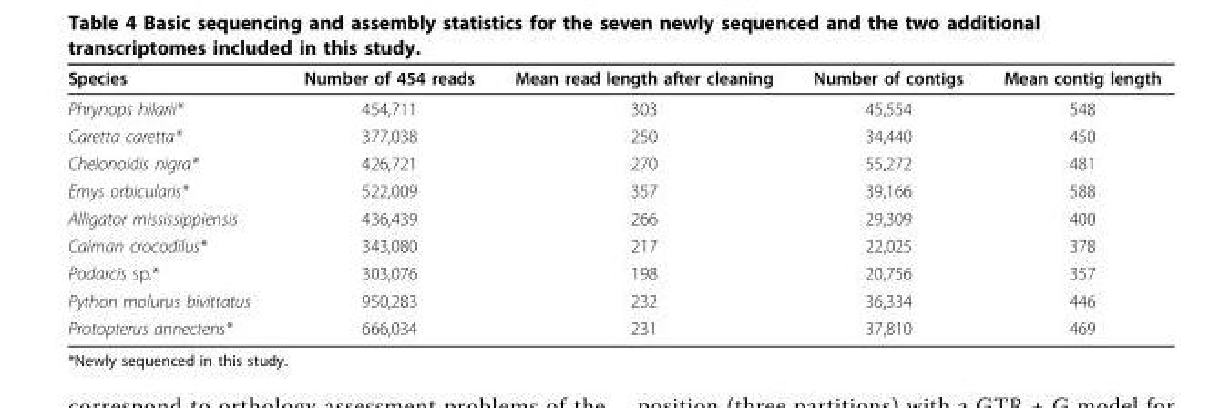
<table><thead><tr><td>Species</td><td>Number of 454 reads</td><td>Mean read length after cleaning</td><td>Number of contigs</td><td>Mean contig length</td></tr></thead><tbody><tr><td>Phrynops hilarii*</td><td>454,711</td><td>303</td><td>45,554</td><td>548</td></tr><tr><td>Caretta caretta*</td><td>377,038</td><td>250</td><td>34,440</td><td>450</td></tr><tr><td>Chelonoidis nigra*</td><td>426,721</td><td>270</td><td>55,272</td><td>481</td></tr><tr><td>Emys orbicularis*</td><td>522,009</td><td>357</td><td>39,166</td><td>588</td></tr><tr><td>Alligator mississippiensis</td><td>436,439</td><td>266</td><td>29,309</td><td>400</td></tr><tr><td>Caiman crocodilus*</td><td>343,080</td><td>217</td><td>22,025</td><td>378</td></tr><tr><td>Podarcis sp.*</td><td>303,076</td><td>198</td><td>20,756</td><td>357</td></tr><tr><td>Python molurus bivittatus</td><td>950,283</td><td>232</td><td>36,334</td><td>446</td></tr><tr><td>Protopterus annectens*</td><td>666,034</td><td>231</td><td>37,810</td><td>469</td></tr></tbody></table>